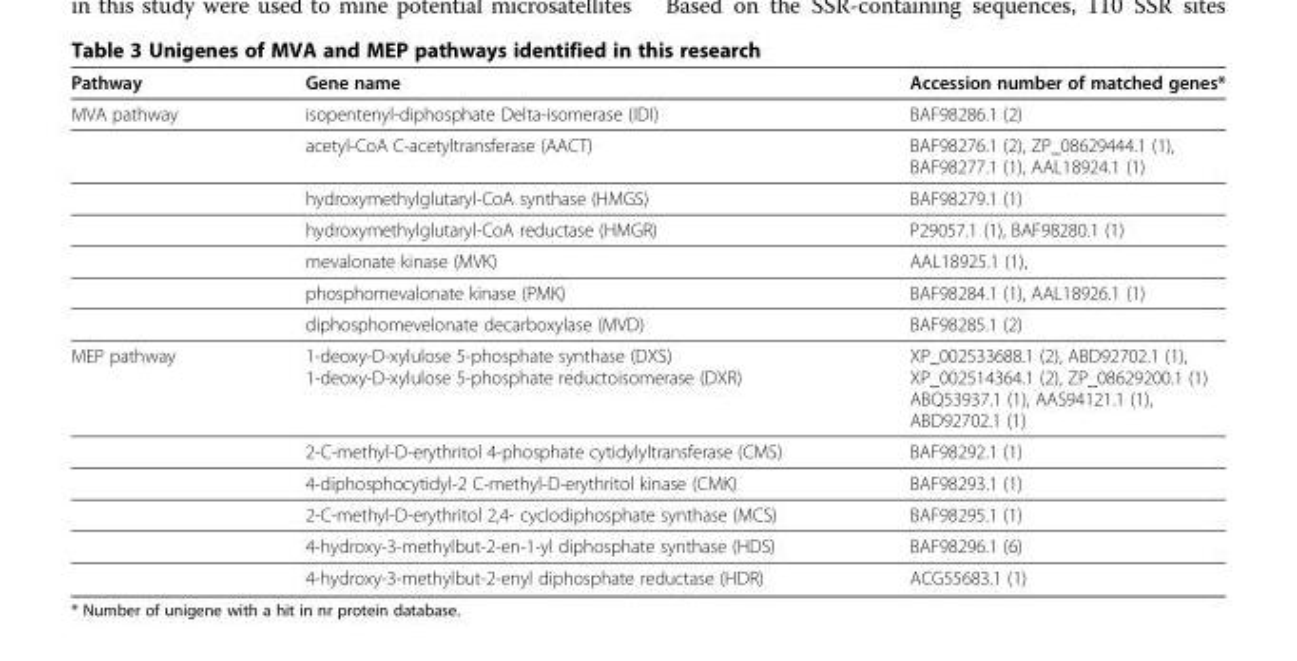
<table><thead><tr><td>Pathway</td><td>Gene name</td><td>Accession number of matched genes*</td></tr></thead><tbody><tr><td rowspan="7">MVA pathway</td><td>isopentenyl-diphosphate Delta-isomerase (IDI)</td><td>BAF98286.1 (2)</td></tr><tr><td>acetyl-CoA C-acetyltransferase (AACT)</td><td>BAF98276.1 (2), ZP_08629444.1 (1), BAF98277.1 (1), AAL18924.1 (1)</td></tr><tr><td>hydroxymethylglutaryl-CoA synthase (HMGS)</td><td>BAF98279.1 (1)</td></tr><tr><td>hydroxymethylglutaryl-CoA reductase (HMGR)</td><td>P29057.1 (1), BAF98280.1 (1)</td></tr><tr><td>mevalonate kinase (MVK)</td><td>AAL18925.1 (1),</td></tr><tr><td>phosphomevalonate kinase (PMK)</td><td>BAF98284.1 (1), AAL18926.1 (1)</td></tr><tr><td>diphosphomevelonate decarboxylase (MVD)</td><td>BAF98285.1 (2)</td></tr><tr><td rowspan="6">MEP pathway</td><td>1-deoxy-D-xylulose 5-phosphate synthase (DXS) 1-deoxy-D-xylulose 5-phosphate reductoisomerase (DXR)</td><td>XP_002533688.1 (2), ABD92702.1 (1), XP_002514364.1 (2), ZP_08629200.1 (1) ABQ53937.1 (1), AAS94121.1 (1), ABD92702.1 (1)</td></tr><tr><td>2-C-methyl-D-erythritol 4-phosphate cytidylyltransferase (CMS)</td><td>BAF98292.1 (1)</td></tr><tr><td>4-diphosphocytidyl-2 C-methyl-D-erythritol kinase (CMK)</td><td>BAF98293.1 (1)</td></tr><tr><td>2-C-methyl-D-erythritol 2,4- cyclodiphosphate synthase (MCS)</td><td>BAF98295.1 (1)</td></tr><tr><td>4-hydroxy-3-methylbut-2-en-1-yl diphosphate synthase (HDS)</td><td>BAF98296.1 (6)</td></tr><tr><td>4-hydroxy-3-methylbut-2-enyl diphosphate reductase (HDR)</td><td>ACG55683.1 (1)</td></tr></tbody></table>